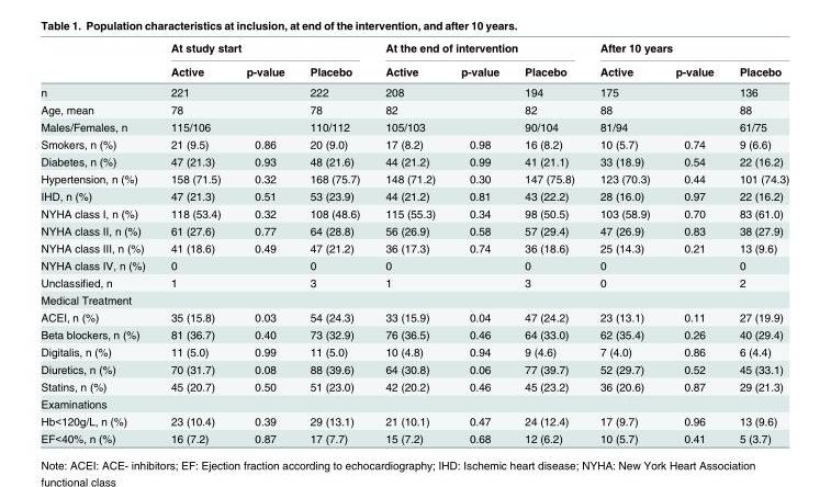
<table><thead><tr><td rowspan="2"></td><td colspan="3">At study start</td><td colspan="3">At the end of intervention</td><td colspan="3">After 10 years</td></tr><tr><td>Active</td><td>p-value</td><td>Placebo</td><td>Active</td><td>p-value</td><td>Placebo</td><td>Active</td><td>p-value</td><td>Placebo</td></tr></thead><tbody><tr><td>n</td><td>221</td><td></td><td>222</td><td>208</td><td></td><td>194</td><td>175</td><td></td><td>136</td></tr><tr><td>Age, mean</td><td>78</td><td></td><td>78</td><td>82</td><td></td><td>82</td><td>88</td><td></td><td>88</td></tr><tr><td>Males/Females, n</td><td>115/106</td><td></td><td>110/112</td><td>105/103</td><td></td><td>90/104</td><td>81/94</td><td></td><td>61/75</td></tr><tr><td>Smokers, n (%)</td><td>21 (9.5)</td><td>0.86</td><td>20 (9.0)</td><td>17 (8.2)</td><td>0.98</td><td>16 (8.2)</td><td>10 (5.7)</td><td>0.74</td><td>9 (6.6)</td></tr><tr><td>Diabetes, n (%)</td><td>47 (21.3)</td><td>0.93</td><td>48 (21.6)</td><td>44 (21.2)</td><td>0.99</td><td>41 (21.1)</td><td>33 (18.9)</td><td>0.54</td><td>22 (16.2)</td></tr><tr><td>Hypertension, n (%)</td><td>158 (71.5)</td><td>0.32</td><td>168 (75.7)</td><td>148 (71.2)</td><td>0.30</td><td>147 (75.8)</td><td>123 (70.3)</td><td>0.44</td><td>101 (74.3)</td></tr><tr><td>IHD, n (%)</td><td>47 (21.3)</td><td>0.51</td><td>53 (23.9)</td><td>44 (21.2)</td><td>0.81</td><td>43 (22.2)</td><td>28 (16.0)</td><td>0.97</td><td>22 (16.2)</td></tr><tr><td>NYHA class I, n (%)</td><td>118 (53.4)</td><td>0.32</td><td>108 (48.6)</td><td>115 (55.3)</td><td>0.34</td><td>98 (50.5)</td><td>103 (58.9)</td><td>0.70</td><td>83 (61.0)</td></tr><tr><td>NYHA class II, n (%)</td><td>61 (27.6)</td><td>0.77</td><td>64 (28.8)</td><td>56 (26.9)</td><td>0.58</td><td>57 (29.4)</td><td>47 (26.9)</td><td>0.83</td><td>38 (27.9)</td></tr><tr><td>NYHA class III, n (%)</td><td>41 (18.6)</td><td>0.49</td><td>47 (21.2)</td><td>36 (17.3)</td><td>0.74</td><td>36 (18.6)</td><td>25 (14.3)</td><td>0.21</td><td>13 (9.6)</td></tr><tr><td>NYHA class IV, n (%)</td><td>0</td><td></td><td>0</td><td>0</td><td></td><td>0</td><td>0</td><td></td><td>0</td></tr><tr><td>Unclassified, n</td><td>1</td><td></td><td>3</td><td>1</td><td></td><td>3</td><td>0</td><td></td><td>2</td></tr><tr><td colspan="10">Medical Treatment</td></tr><tr><td>ACEI, n (%)</td><td>35 (15.8)</td><td>0.03</td><td>54 (24.3)</td><td>33 (15.9)</td><td>0.04</td><td>47 (24.2)</td><td>23 (13.1)</td><td>0.11</td><td>27 (19.9)</td></tr><tr><td>Beta blockers, n (%)</td><td>81 (36.7)</td><td>0.40</td><td>73 (32.9)</td><td>76 (36.5)</td><td>0.46</td><td>64 (33.0)</td><td>62 (35.4)</td><td>0.26</td><td>40 (29.4)</td></tr><tr><td>Digitalis, n (%)</td><td>11 (5.0)</td><td>0.99</td><td>11 (5.0)</td><td>10 (4.8)</td><td>0.94</td><td>9 (4.6)</td><td>7 (4.0)</td><td>0.86</td><td>6 (4.4)</td></tr><tr><td>Diuretics, n (%)</td><td>70 (31.7)</td><td>0.08</td><td>88 (39.6)</td><td>64 (30.8)</td><td>0.06</td><td>77 (39.7)</td><td>52 (29.7)</td><td>0.52</td><td>45 (33.1)</td></tr><tr><td>Statins, n (%)</td><td>45 (20.7)</td><td>0.50</td><td>51 (23.0)</td><td>42 (20.2)</td><td>0.46</td><td>45 (23.2)</td><td>36 (20.6)</td><td>0.87</td><td>29 (21.3)</td></tr><tr><td colspan="10">Examinations</td></tr><tr><td>Hb&lt;120g/L, n (%)</td><td>23 (10.4)</td><td>0.39</td><td>29 (13.1)</td><td>21 (10.1)</td><td>0.47</td><td>24 (12.4)</td><td>17 (9.7)</td><td>0.96</td><td>13 (9.6)</td></tr><tr><td>EF&lt;40%, n (%)</td><td>16 (7.2)</td><td>0.87</td><td>17 (7.7)</td><td>15 (7.2)</td><td>0.68</td><td>12 (6.2)</td><td>10 (5.7)</td><td>0.41</td><td>5 (3.7)</td></tr></tbody></table>